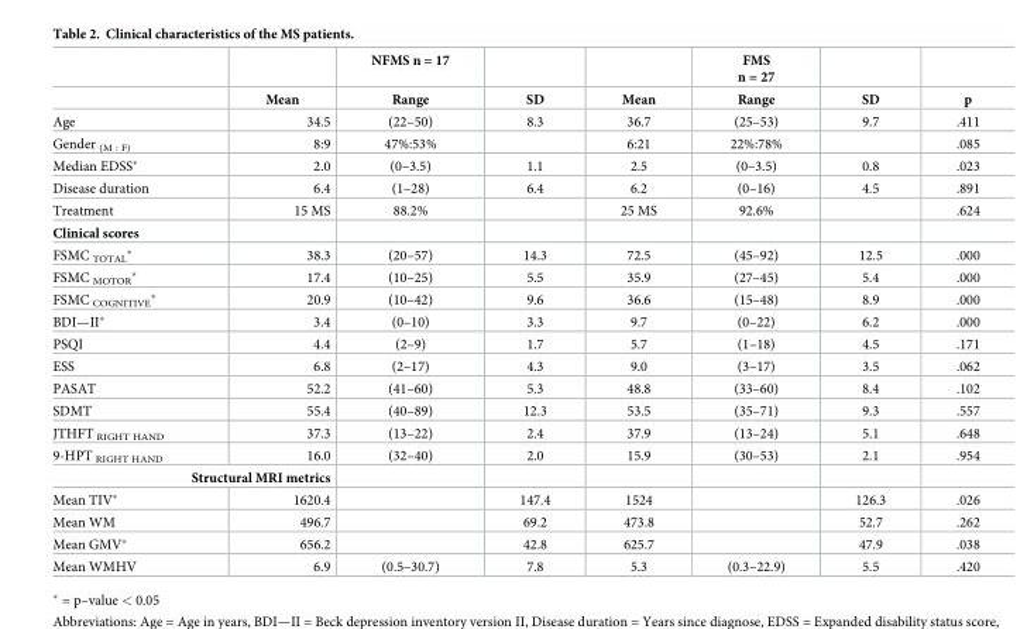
<table><thead><tr><td rowspan="2"></td><td rowspan="2">Mean</td><td rowspan="2">NFMS n = 17 Range</td><td rowspan="2">SD</td><td rowspan="2">Mean</td><td rowspan="2">FMS n = 27 Range</td><td rowspan="2">SD</td><td rowspan="2">p</td></tr><tr></tr></thead><tbody><tr><td>Age</td><td>34.5</td><td>(22–50)</td><td>8.3</td><td>36.7</td><td>(25–53)</td><td>9.7</td><td>.411</td></tr><tr><td>Gender <sub>(M : F)</sub></td><td>8:9</td><td>47%:53%</td><td></td><td>6:21</td><td>22%:78%</td><td></td><td>.085</td></tr><tr><td>Median EDSS*</td><td>2.0</td><td>(0–3.5)</td><td>1.1</td><td>2.5</td><td>(0–3.5)</td><td>0.8</td><td>.023</td></tr><tr><td>Disease duration</td><td>6.4</td><td>(1–28)</td><td>6.4</td><td>6.2</td><td>(0–16)</td><td>4.5</td><td>.891</td></tr><tr><td>Treatment</td><td>15 MS</td><td>88.2%</td><td></td><td>25 MS</td><td>92.6%</td><td></td><td>.624</td></tr><tr><td colspan="8">Clinical scores</td></tr><tr><td>FSMC <sub>TOTAL</sub>*</td><td>38.3</td><td>(20–57)</td><td>14.3</td><td>72.5</td><td>(45–92)</td><td>12.5</td><td>.000</td></tr><tr><td>FSMC <sub>MOTOR</sub>*</td><td>17.4</td><td>(10–25)</td><td>5.5</td><td>35.9</td><td>(27–45)</td><td>5.4</td><td>.000</td></tr><tr><td>FSMC <sub>COGNITIVE</sub>*</td><td>20.9</td><td>(10–42)</td><td>9.6</td><td>36.6</td><td>(15–48)</td><td>8.9</td><td>.000</td></tr><tr><td>BDI—II*</td><td>3.4</td><td>(0–10)</td><td>3.3</td><td>9.7</td><td>(0–22)</td><td>6.2</td><td>.000</td></tr><tr><td>PSQI</td><td>4.4</td><td>(2–9)</td><td>1.7</td><td>5.7</td><td>(1–18)</td><td>4.5</td><td>.171</td></tr><tr><td>ESS</td><td>6.8</td><td>(2–17)</td><td>4.3</td><td>9.0</td><td>(3–17)</td><td>3.5</td><td>.062</td></tr><tr><td>PASAT</td><td>52.2</td><td>(41–60)</td><td>5.3</td><td>48.8</td><td>(33–60)</td><td>8.4</td><td>.102</td></tr><tr><td>SDMT</td><td>55.4</td><td>(40–89)</td><td>12.3</td><td>53.5</td><td>(35–71)</td><td>9.3</td><td>.557</td></tr><tr><td>JTHFT <sub>RIGHT HAND</sub></td><td>37.3</td><td>(13–22)</td><td>2.4</td><td>37.9</td><td>(13–24)</td><td>5.1</td><td>.648</td></tr><tr><td>9-HPT <sub>RIGHT HAND</sub></td><td>16.0</td><td>(32–40)</td><td>2.0</td><td>15.9</td><td>(30–53)</td><td>2.1</td><td>.954</td></tr><tr><td colspan="8">Structural MRI metrics</td></tr><tr><td>Mean TIV*</td><td>1620.4</td><td></td><td>147.4</td><td>1524</td><td></td><td>126.3</td><td>.026</td></tr><tr><td>Mean WM</td><td>496.7</td><td></td><td>69.2</td><td>473.8</td><td></td><td>52.7</td><td>.262</td></tr><tr><td>Mean GMV*</td><td>656.2</td><td></td><td>42.8</td><td>625.7</td><td></td><td>47.9</td><td>.038</td></tr><tr><td>Mean WMHV</td><td>6.9</td><td>(0.5–30.7)</td><td>7.8</td><td>5.3</td><td>(0.3–22.9)</td><td>5.5</td><td>.420</td></tr></tbody></table>